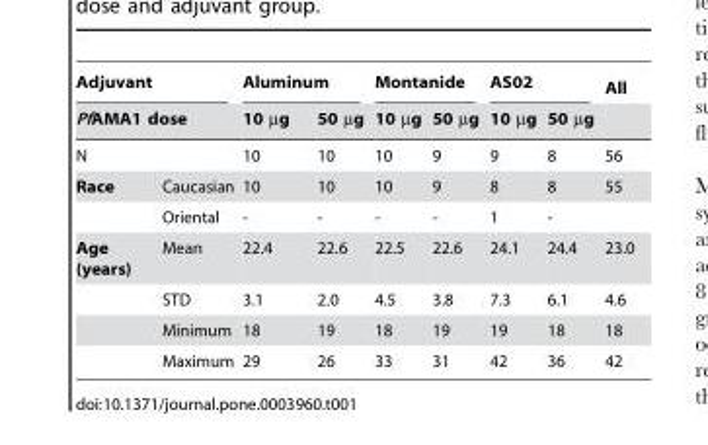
<table><thead><tr><td rowspan="3" colspan="2">Adjuvant PfAMA1 dose N</td><td colspan="2">Aluminum</td><td colspan="2">Montanide</td><td colspan="2">AS02</td><td rowspan="4">All 56 55</td></tr><tr><td rowspan="3">10 µg 10 10</td><td rowspan="3">50 µg 10 10</td><td rowspan="3">10 µg 10 10</td><td rowspan="3">50 µg 9 9</td><td rowspan="3">10 µg 9 8</td><td rowspan="3">50 µg 8 8</td></tr><tr></tr><tr><td>Race</td><td>Caucasian</td></tr></thead><tbody><tr><td></td><td>Oriental</td><td>-</td><td>-</td><td>-</td><td>-</td><td>1</td><td>-</td><td></td></tr><tr><td rowspan="4">Age (years)</td><td>Mean</td><td>22.4</td><td>22.6</td><td>22.5</td><td>22.6</td><td>24.1</td><td>24.4</td><td>23.0</td></tr><tr><td>STD</td><td>3.1</td><td>2.0</td><td>4.5</td><td>3.8</td><td>7.3</td><td>6.1</td><td>4.6</td></tr><tr><td>Minimum</td><td>18</td><td>19</td><td>18</td><td>19</td><td>19</td><td>18</td><td>18</td></tr><tr><td>Maximum</td><td>29</td><td>26</td><td>33</td><td>31</td><td>42</td><td>36</td><td>42</td></tr></tbody></table>